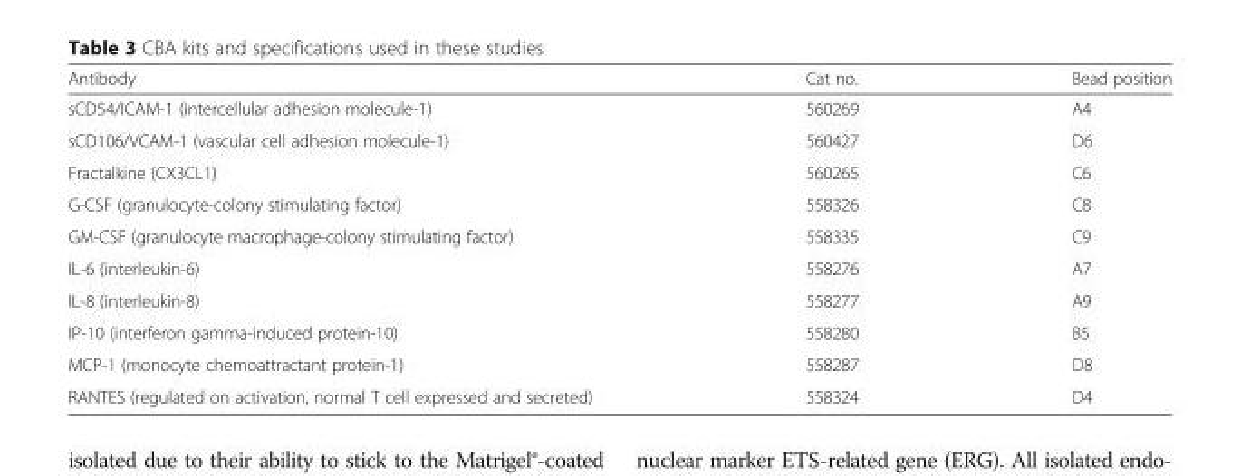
<table><thead><tr><td>Antibody</td><td>Cat no.</td><td>Bead position</td></tr></thead><tbody><tr><td>sCD54/ICAM-1 (intercellular adhesion molecule-1)</td><td>560269</td><td>A4</td></tr><tr><td>sCD106/VCAM-1 (vascular cell adhesion molecule-1)</td><td>560427</td><td>D6</td></tr><tr><td>Fractalkine (CX3CL1)</td><td>560265</td><td>C6</td></tr><tr><td>G-CSF (granulocyte-colony stimulating factor)</td><td>558326</td><td>C8</td></tr><tr><td>GM-CSF (granulocyte macrophage-colony stimulating factor)</td><td>558335</td><td>C9</td></tr><tr><td>IL-6 (interleukin-6)</td><td>558276</td><td>A7</td></tr><tr><td>IL-8 (interleukin-8)</td><td>558277</td><td>A9</td></tr><tr><td>IP-10 (interferon gamma-induced protein-10)</td><td>558280</td><td>B5</td></tr><tr><td>MCP-1 (monocyte chemoattractant protein-1)</td><td>558287</td><td>D8</td></tr><tr><td>RANTES (regulated on activation, normal T cell expressed and secreted)</td><td>558324</td><td>D4</td></tr></tbody></table>